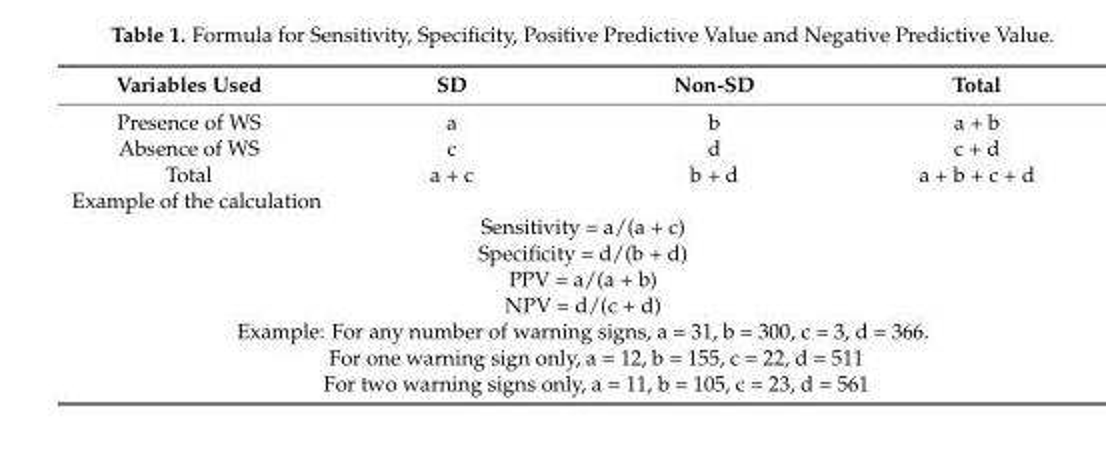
<table><thead><tr><td>Variables Used</td><td>SD</td><td>Non-SD</td><td>Total</td></tr></thead><tbody><tr><td>Presence of WS</td><td>a</td><td>b</td><td>a + b</td></tr><tr><td>Absence of WS</td><td>c</td><td>d</td><td>c + d</td></tr><tr><td>Total</td><td>a + c</td><td>b + d</td><td>a + b + c + d</td></tr><tr><td colspan="4">Example of the calculation</td></tr><tr><td colspan="4">Sensitivity = a/(a + c)</td></tr><tr><td colspan="4">Specificity = d/(b + d)</td></tr><tr><td colspan="4">PPV = a/(a + b)</td></tr><tr><td colspan="4">NPV = d/(c + d)</td></tr><tr><td colspan="4">Example: For any number of warning signs, a = 31, b = 300, c = 3, d = 366.</td></tr><tr><td colspan="4">For one warning sign only, a = 12, b = 155, c = 22, d = 511</td></tr><tr><td colspan="4">For two warning signs only, a = 11, b = 105, c = 23, d = 561</td></tr></tbody></table>